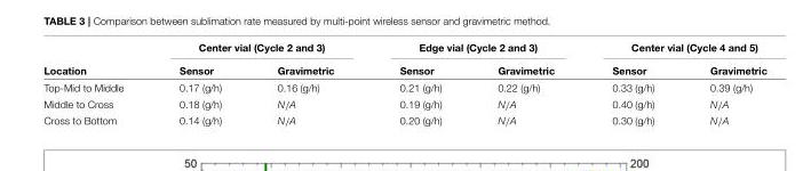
<table><thead><tr><td rowspan="2">Location</td><td colspan="2">Center vial (Cycle 2 and 3)</td><td colspan="2">Edge vial (Cycle 2 and 3)</td><td colspan="2">Center vial (Cycle 4 and 5)</td></tr><tr><td>Sensor</td><td>Gravimetric</td><td>Sensor</td><td>Gravimetric</td><td>Sensor</td><td>Gravimetric</td></tr></thead><tbody><tr><td>Top-Mid to Middle</td><td>0.17 (g/h)</td><td>0.16 (g/h)</td><td>0.21 (g/h)</td><td>0.22 (g/h)</td><td>0.33 (g/h)</td><td>0.39 (g/h)</td></tr><tr><td>Middle to Cross</td><td>0.18 (g/h)</td><td>N/A</td><td>0.19 (g/h)</td><td>N/A</td><td>0.40 (g/h)</td><td>N/A</td></tr><tr><td>Cross to Bottom</td><td>0.14 (g/h)</td><td>N/A</td><td>0.20 (g/h)</td><td>N/A</td><td>0.30 (g/h)</td><td>N/A</td></tr></tbody></table>